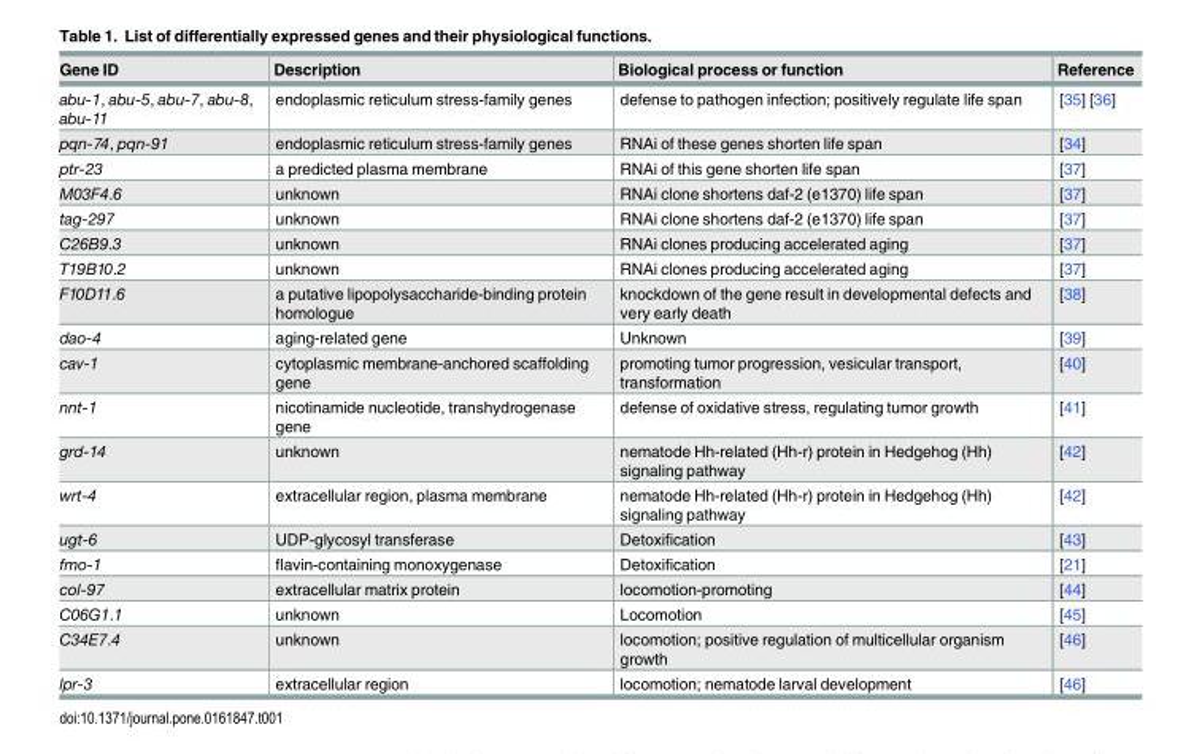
<table><thead><tr><td>Gene ID</td><td>Description</td><td>Biological process or function</td><td>Reference</td></tr></thead><tbody><tr><td>abu-1, abu-5, abu-7, abu-8, abu-11</td><td>endoplasmic reticulum stress-family genes</td><td>defense to pathogen infection; positively regulate life span</td><td>[35] [36]</td></tr><tr><td>pqn-74, pqn-91</td><td>endoplasmic reticulum stress-family genes</td><td>RNAi of these genes shorten life span</td><td>[34]</td></tr><tr><td>ptr-23</td><td>a predicted plasma membrane</td><td>RNAi of this gene shorten life span</td><td>[37]</td></tr><tr><td>M03F4.6</td><td>unknown</td><td>RNAi clone shortens daf-2 (e1370) life span</td><td>[37]</td></tr><tr><td>tag-297</td><td>unknown</td><td>RNAi clone shortens daf-2 (e1370) life span</td><td>[37]</td></tr><tr><td>C26B9.3</td><td>unknown</td><td>RNAi clones producing accelerated aging</td><td>[37]</td></tr><tr><td>T19B10.2</td><td>unknown</td><td>RNAi clones producing accelerated aging</td><td>[37]</td></tr><tr><td>F10D11.6</td><td>a putative lipopolysaccharide-binding protein homologue</td><td>knockdown of the gene result in developmental defects and very early death</td><td>[38]</td></tr><tr><td>dao-4</td><td>aging-related gene</td><td>Unknown</td><td>[39]</td></tr><tr><td>cav-1</td><td>cytoplasmic membrane-anchored scaffolding gene</td><td>promoting tumor progression, vesicular transport, transformation</td><td>[40]</td></tr><tr><td>nnt-1</td><td>nicotinamide nucleotide, transhydrogenase gene</td><td>defense of oxidative stress, regulating tumor growth</td><td>[41]</td></tr><tr><td>grd-14</td><td>unknown</td><td>nematode Hh-related (Hh-r) protein in Hedgehog (Hh) signaling pathway</td><td>[42]</td></tr><tr><td>wrt-4</td><td>extracellular region, plasma membrane</td><td>nematode Hh-related (Hh-r) protein in Hedgehog (Hh) signaling pathway</td><td>[42]</td></tr><tr><td>ugt-6</td><td>UDP-glycosyl transferase</td><td>Detoxification</td><td>[43]</td></tr><tr><td>fmo-1</td><td>flavin-containing monoxygenase</td><td>Detoxification</td><td>[21]</td></tr><tr><td>col-97</td><td>extracellular matrix protein</td><td>locomotion-promoting</td><td>[44]</td></tr><tr><td>C06G1.1</td><td>unknown</td><td>Locomotion</td><td>[45]</td></tr><tr><td>C34E7.4</td><td>unknown</td><td>locomotion; positive regulation of multicellular organism growth</td><td>[46]</td></tr><tr><td>lpr-3</td><td>extracellular region</td><td>locomotion; nematode larval development</td><td>[46]</td></tr></tbody></table>